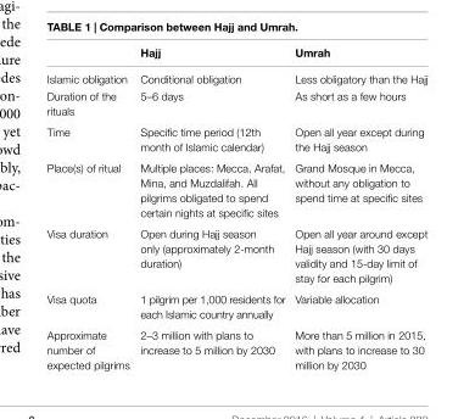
<table><thead><tr><td></td><td>Hajj</td><td>Umrah</td></tr></thead><tbody><tr><td>Islamic obligation</td><td>Conditional obligation</td><td>Less obligatory than the Hajj</td></tr><tr><td>Duration of the rituals</td><td>5–6 days</td><td>As short as a few hours</td></tr><tr><td>Time</td><td>Specific time period (12th month of Islamic calendar)</td><td>Open all year except during the Hajj season</td></tr><tr><td>Place(s) of ritual</td><td>Multiple places: Mecca, Arafat, Mina, and Muzdalifah. All pilgrims obligated to spend certain nights at specific sites</td><td>Grand Mosque in Mecca, without any obligation to spend time at specific sites</td></tr><tr><td>Visa duration</td><td>Open during Hajj season only (approximately 2-month duration)</td><td>Open all year around except Hajj season (with 30 days validity and 15-day limit of stay for each pilgrim)</td></tr><tr><td>Visa quota</td><td>1 pilgrim per 1,000 residents for each Islamic country annually</td><td>Variable allocation</td></tr><tr><td>Approximate number of expected pilgrims</td><td>2–3 million with plans to increase to 5 million by 2030</td><td>More than 5 million in 2015, with plans to increase to 30 million by 2030</td></tr></tbody></table>